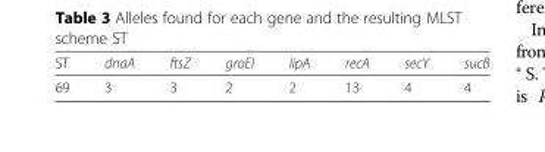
<table><thead><tr><td>ST</td><td>dnaA</td><td>ftsZ</td><td>groEl</td><td>lipA</td><td>recA</td><td>secY</td><td>sucB</td></tr></thead><tbody><tr><td>69</td><td>3</td><td>3</td><td>2</td><td>2</td><td>13</td><td>4</td><td>4</td></tr></tbody></table>